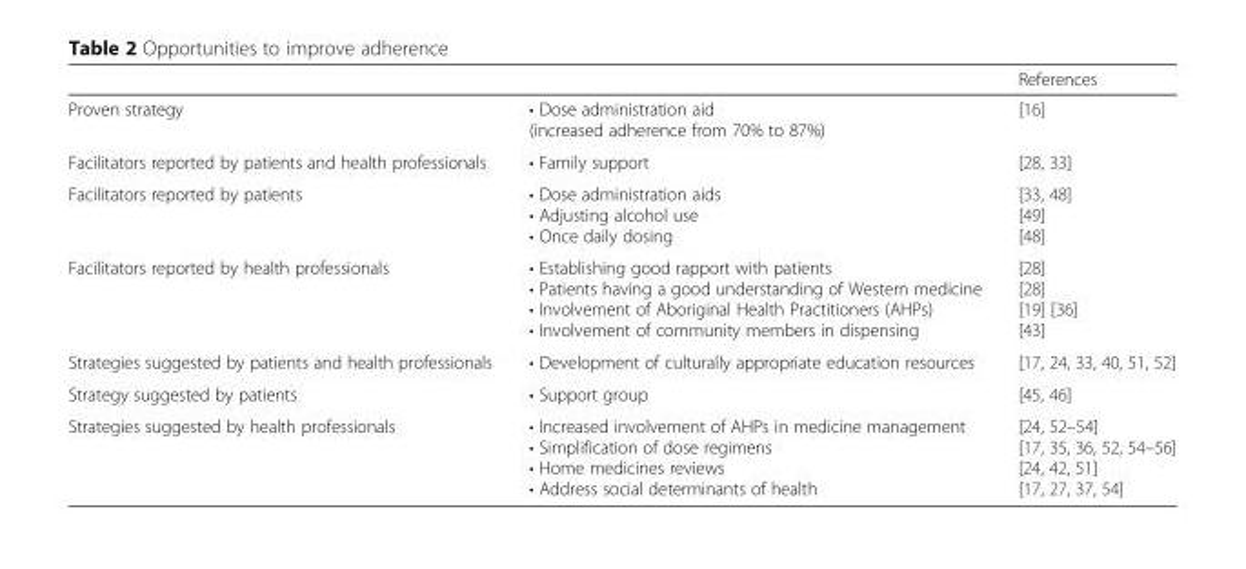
<table><thead><tr><td></td><td></td><td>References</td></tr></thead><tbody><tr><td>Proven strategy</td><td>• Dose administration aid (increased adherence from 70% to 87%)</td><td>[16]</td></tr><tr><td>Facilitators reported by patients and health professionals</td><td>• Family support</td><td>[28, 33]</td></tr><tr><td>Facilitators reported by patients</td><td>• Dose administration aids • Adjusting alcohol use • Once daily dosing</td><td>[33, 48] [49] [48]</td></tr><tr><td>Facilitators reported by health professionals</td><td>• Establishing good rapport with patients • Patients having a good understanding of Western medicine • Involvement of Aboriginal Health Practitioners (AHPs) • Involvement of community members in dispensing</td><td>[28] [28] [19] [36] [43]</td></tr><tr><td>Strategies suggested by patients and health professionals</td><td>• Development of culturally appropriate education resources</td><td>[17, 24, 33, 40, 51, 52]</td></tr><tr><td>Strategy suggested by patients</td><td>• Support group</td><td>[45, 46]</td></tr><tr><td>Strategies suggested by health professionals</td><td>• Increased involvement of AHPs in medicine management • Simplification of dose regimens • Home medicines reviews • Address social determinants of health</td><td>[24, 52–54] [17, 35, 36, 52, 54–56] [24, 42, 51] [17, 27, 37, 54]</td></tr></tbody></table>